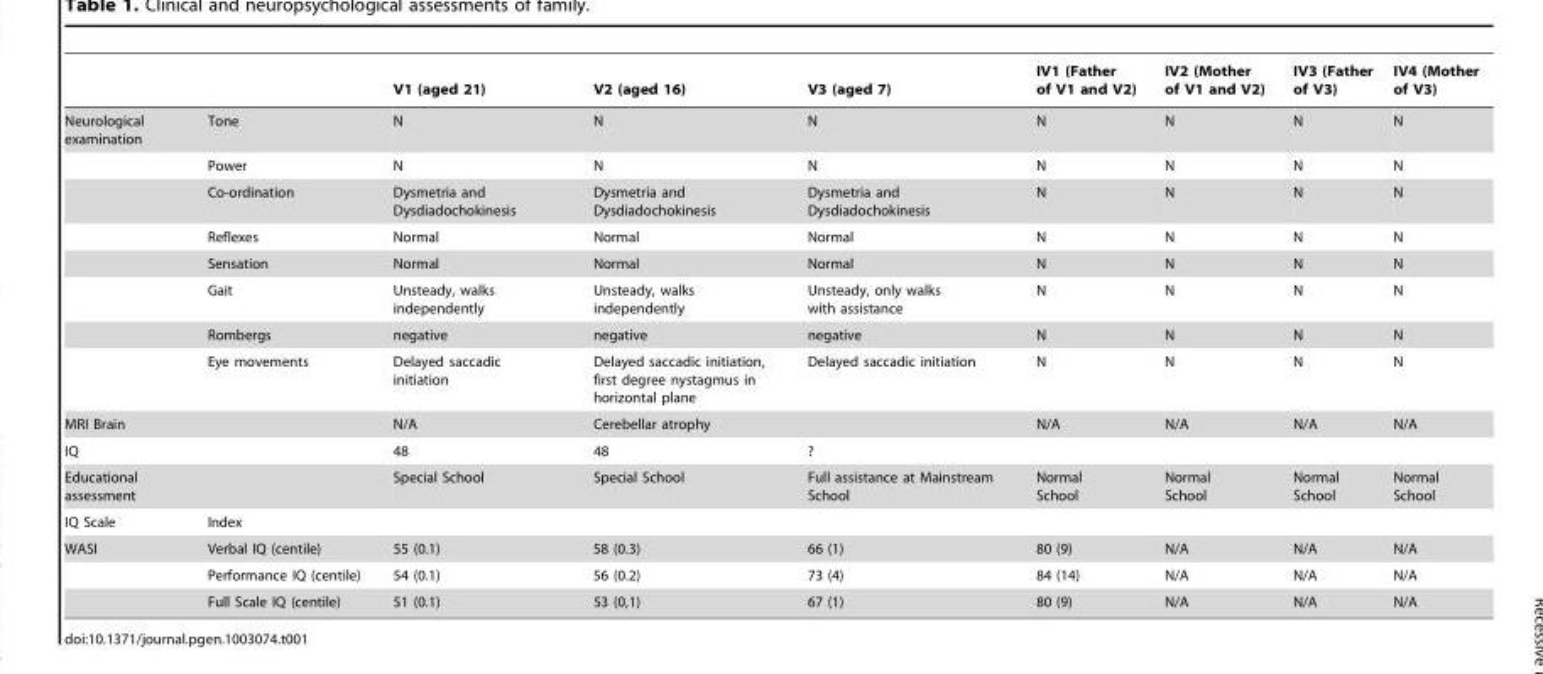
<table><thead><tr><td></td><td></td><td>V1 (aged 21)</td><td>V2 (aged 16)</td><td>V3 (aged 7)</td><td>IV1 (Father of V1 and V2)</td><td>IV2 (Mother of V1 and V2)</td><td>IV3 (Father of V3)</td><td>IV4 (Mother of V3)</td></tr></thead><tbody><tr><td rowspan="8">Neurological examination</td><td>Tone</td><td>N</td><td>N</td><td>N</td><td>N</td><td>N</td><td>N</td><td>N</td></tr><tr><td>Power</td><td>N</td><td>N</td><td>N</td><td>N</td><td>N</td><td>N</td><td>N</td></tr><tr><td>Co-ordination</td><td>Dysmetria and Dysdiadochokinesis</td><td>Dysmetria and Dysdiadochokinesis</td><td>Dysmetria and Dysdiadochokinesis</td><td>N</td><td>N</td><td>N</td><td>N</td></tr><tr><td>Reflexes</td><td>Normal</td><td>Normal</td><td>Normal</td><td>N</td><td>N</td><td>N</td><td>N</td></tr><tr><td>Sensation</td><td>Normal</td><td>Normal</td><td>Normal</td><td>N</td><td>N</td><td>N</td><td>N</td></tr><tr><td>Gait</td><td>Unsteady, walks independently</td><td>Unsteady, walks independently</td><td>Unsteady, only walks with assistance</td><td>N</td><td>N</td><td>N</td><td>N</td></tr><tr><td>Rombergs</td><td>negative</td><td>negative</td><td>negative</td><td>N</td><td>N</td><td>N</td><td>N</td></tr><tr><td>Eye movements</td><td>Delayed saccadic initiation</td><td>Delayed saccadic initiation, first degree nystagmus in horizontal plane</td><td>Delayed saccadic initiation</td><td>N</td><td>N</td><td>N</td><td>N</td></tr><tr><td>MRI Brain</td><td></td><td>N/A</td><td>Cerebellar atrophy</td><td></td><td>N/A</td><td>N/A</td><td>N/A</td><td>N/A</td></tr><tr><td>IQ</td><td></td><td>48</td><td>48</td><td>?</td><td></td><td></td><td></td><td></td></tr><tr><td>Educational assessment</td><td></td><td>Special School</td><td>Special School</td><td>Full assistance at Mainstream School</td><td>Normal School</td><td>Normal School</td><td>Normal School</td><td>Normal School</td></tr><tr><td>IQ Scale</td><td>Index</td><td></td><td></td><td></td><td></td><td></td><td></td><td></td></tr><tr><td rowspan="3">WASI</td><td>Verbal IQ (centile)</td><td>55 (0.1)</td><td>58 (0.3)</td><td>66 (1)</td><td>80 (9)</td><td>N/A</td><td>N/A</td><td>N/A</td></tr><tr><td>Performance IQ (centile)</td><td>54 (0.1)</td><td>56 (0.2)</td><td>73 (4)</td><td>84 (14)</td><td>N/A</td><td>N/A</td><td>N/A</td></tr><tr><td>Full Scale IQ (centile)</td><td>51 (0.1)</td><td>53 (0,1)</td><td>67 (1)</td><td>80 (9)</td><td>N/A</td><td>N/A</td><td>N/A</td></tr></tbody></table>